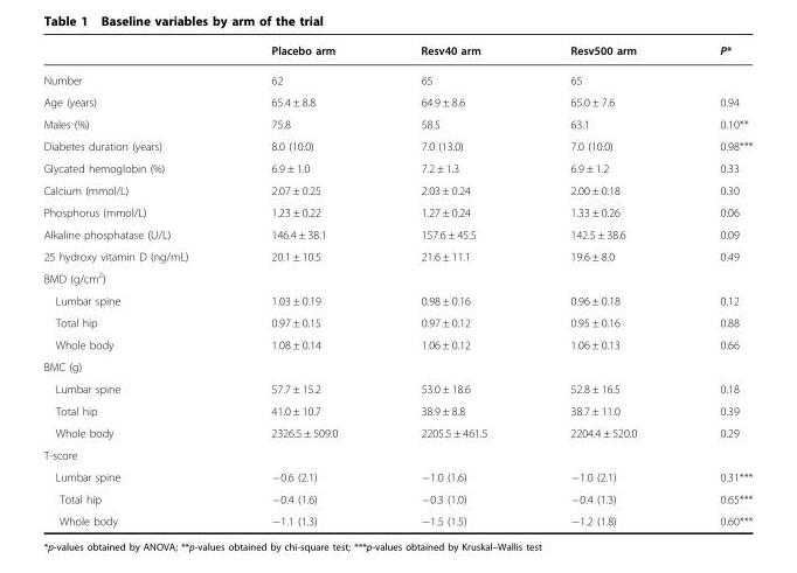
<table><thead><tr><td></td><td>Placebo arm</td><td>Resv40 arm</td><td>Resv500 arm</td><td>P*</td></tr></thead><tbody><tr><td>Number</td><td>62</td><td>65</td><td>65</td><td></td></tr><tr><td>Age (years)</td><td>65.4 ± 8.8</td><td>64.9 ± 8.6</td><td>65.0 ± 7.6</td><td>0.94</td></tr><tr><td>Males (%)</td><td>75.8</td><td>58.5</td><td>63.1</td><td>0.10**</td></tr><tr><td>Diabetes duration (years)</td><td>8.0 (10.0)</td><td>7.0 (13.0)</td><td>7.0 (10.0)</td><td>0.98***</td></tr><tr><td>Glycated hemoglobin (%)</td><td>6.9 ± 1.0</td><td>7.2 ± 1.3</td><td>6.9 ± 1.2</td><td>0.33</td></tr><tr><td>Calcium (mmol/L)</td><td>2.07 ± 0.25</td><td>2.03 ± 0.24</td><td>2.00 ± 0.18</td><td>0.30</td></tr><tr><td>Phosphorus (mmol/L)</td><td>1.23 ± 0.22</td><td>1.27 ± 0.24</td><td>1.33 ± 0.26</td><td>0.06</td></tr><tr><td>Alkaline phosphatase (U/L)</td><td>146.4 ± 38.1</td><td>157.6 ± 45.5</td><td>142.5 ± 38.6</td><td>0.09</td></tr><tr><td>25 hydroxy vitamin D (ng/mL)</td><td>20.1 ± 10.5</td><td>21.6 ± 11.1</td><td>19.6 ± 8.0</td><td>0.49</td></tr><tr><td colspan="5">BMD (g/cm<sup>2</sup>)</td></tr><tr><td>Lumbar spine</td><td>1.03 ± 0.19</td><td>0.98 ± 0.16</td><td>0.96 ± 0.18</td><td>0.12</td></tr><tr><td>Total hip</td><td>0.97 ± 0.15</td><td>0.97 ± 0.12</td><td>0.95 ± 0.16</td><td>0.88</td></tr><tr><td>Whole body</td><td>1.08 ± 0.14</td><td>1.06 ± 0.12</td><td>1.06 ± 0.13</td><td>0.66</td></tr><tr><td colspan="5">BMC (g)</td></tr><tr><td>Lumbar spine</td><td>57.7 ± 15.2</td><td>53.0 ± 18.6</td><td>52.8 ± 16.5</td><td>0.18</td></tr><tr><td>Total hip</td><td>41.0 ± 10.7</td><td>38.9 ± 8.8</td><td>38.7 ± 11.0</td><td>0.39</td></tr><tr><td>Whole body</td><td>2326.5 ± 509.0</td><td>2205.5 ± 461.5</td><td>2204.4 ± 520.0</td><td>0.29</td></tr><tr><td colspan="5">T-score</td></tr><tr><td>Lumbar spine</td><td>−0.6 (2.1)</td><td>−1.0 (1.6)</td><td>−1.0 (2.1)</td><td>0.31***</td></tr><tr><td>Total hip</td><td>−0.4 (1.6)</td><td>−0.3 (1.0)</td><td>−0.4 (1.3)</td><td>0.65***</td></tr><tr><td>Whole body</td><td>−1.1 (1.3)</td><td>−1.5 (1.5)</td><td>−1.2 (1.8)</td><td>0.60***</td></tr></tbody></table>